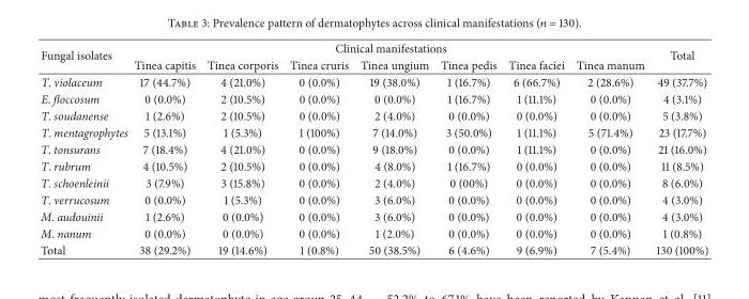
<table><thead><tr><td rowspan="2">Fungal isolates</td><td colspan="7">Clinical manifestations</td><td rowspan="2">Total</td></tr><tr><td>Tinea capitis</td><td>Tinea corporis</td><td>Tinea cruris</td><td>Tinea ungium</td><td>Tinea pedis</td><td>Tinea faciei</td><td>Tinea manum</td></tr></thead><tbody><tr><td>T. violaceum</td><td>17 (44.7%)</td><td>4 (21.0%)</td><td>0 (0.0%)</td><td>19 (38.0%)</td><td>1 (16.7%)</td><td>6 (66.7%)</td><td>2 (28.6%)</td><td>49 (37.7%)</td></tr><tr><td>E. floccosum</td><td>0 (0.0%)</td><td>2 (10.5%)</td><td>0 (0.0%)</td><td>0 (0.0%)</td><td>1 (16.7%)</td><td>1 (11.1%)</td><td>0 (0.0%)</td><td>4 (3.1%)</td></tr><tr><td>T. soudanense</td><td>1 (2.6%)</td><td>2 (10.5%)</td><td>0 (0.0%)</td><td>2 (4.0%)</td><td>0 (0.0%)</td><td>0 (0.0%)</td><td>0 (0.0%)</td><td>5 (3.8%)</td></tr><tr><td>T. mentagrophytes</td><td>5 (13.1%)</td><td>1 (5.3%)</td><td>1 (100%)</td><td>7 (14.0%)</td><td>3 (50.0%)</td><td>1 (11.1%)</td><td>5 (71.4%)</td><td>23 (17.7%)</td></tr><tr><td>T. tonsurans</td><td>7 (18.4%)</td><td>4 (21.0%)</td><td>0 (0.0%)</td><td>9 (18.0%)</td><td>0 (0.0%)</td><td>1 (11.1%)</td><td>0 (0.0%)</td><td>21 (16.0%)</td></tr><tr><td>T. rubrum</td><td>4 (10.5%)</td><td>2 (10.5%)</td><td>0 (0.0%)</td><td>4 (8.0%)</td><td>1 (16.7%)</td><td>0 (0.0%)</td><td>0 (0.0%)</td><td>11 (8.5%)</td></tr><tr><td>T. schoenleinii</td><td>3 (7.9%)</td><td>3 (15.8%)</td><td>0 (0.0%)</td><td>2 (4.0%)</td><td>0 (00%)</td><td>0 (0.0%)</td><td>0 (0.0%)</td><td>8 (6.0%)</td></tr><tr><td>T. verrucosum</td><td>0 (0.0%)</td><td>1 (5.3%)</td><td>0 (0.0%)</td><td>3 (6.0%)</td><td>0 (0.0%)</td><td>0 (0.0%)</td><td>0 (0.0%)</td><td>4 (3.0%)</td></tr><tr><td>M. audouinii</td><td>1 (2.6%)</td><td>0 (0.0%)</td><td>0 (0.0%)</td><td>3 (6.0%)</td><td>0 (0.0%)</td><td>0 (0.0%)</td><td>0 (0.0%)</td><td>4 (3.0%)</td></tr><tr><td>M. nanum</td><td>0 (0.0%)</td><td>0 (0.0%)</td><td>0 (0.0%)</td><td>1 (2.0%)</td><td>0 (0.0%)</td><td>0 (0.0%)</td><td>0 (0.0%)</td><td>1 (0.8%)</td></tr><tr><td>Total</td><td>38 (29.2%)</td><td>19 (14.6%)</td><td>1 (0.8%)</td><td>50 (38.5%)</td><td>6 (4.6%)</td><td>9 (6.9%)</td><td>7 (5.4%)</td><td>130 (100%)</td></tr></tbody></table>